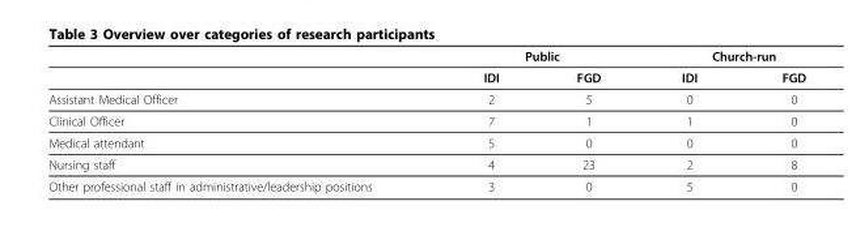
<table><thead><tr><td rowspan="2"></td><td colspan="2">Public</td><td colspan="2">Church-run</td></tr><tr><td>IDI</td><td>FGD</td><td>IDI</td><td>FGD</td></tr></thead><tbody><tr><td>Assistant Medical Officer</td><td>2</td><td>5</td><td>0</td><td>0</td></tr><tr><td>Clinical Officer</td><td>7</td><td>1</td><td>1</td><td>0</td></tr><tr><td>Medical attendant</td><td>5</td><td>0</td><td>0</td><td>0</td></tr><tr><td>Nursing staff</td><td>4</td><td>23</td><td>2</td><td>8</td></tr><tr><td>Other professional staff in administrative/leadership positions</td><td>3</td><td>0</td><td>5</td><td>0</td></tr></tbody></table>